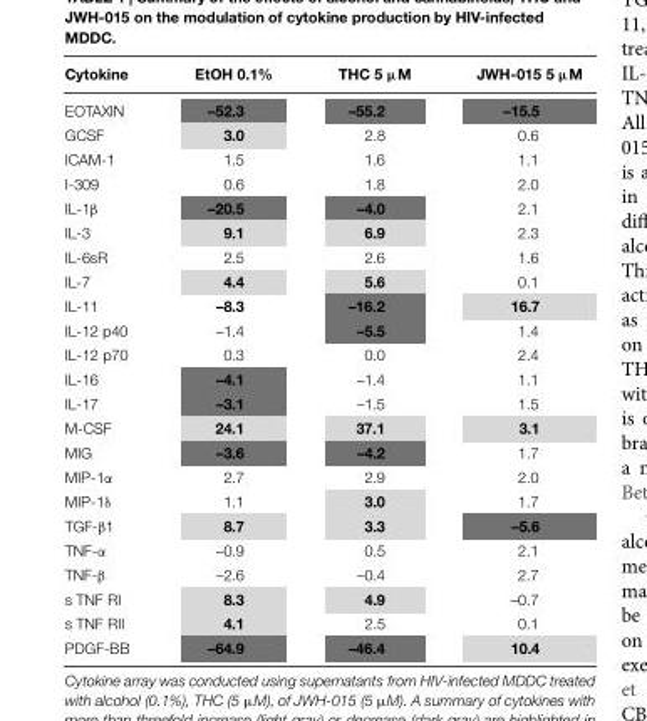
<table><thead><tr><td>Cytokine</td><td>EtOH 0.1%</td><td>THC 5 µM</td><td>JWH-015 5 µM</td></tr></thead><tbody><tr><td>EOTAXIN</td><td>–52.3</td><td>–55.2</td><td>–15.5</td></tr><tr><td>GCSF</td><td>3.0</td><td>2.8</td><td>0.6</td></tr><tr><td>ICAM-1</td><td>1.5</td><td>1.6</td><td>1.1</td></tr><tr><td>I-309</td><td>0.6</td><td>1.8</td><td>2.0</td></tr><tr><td>IL-1β</td><td>–20.5</td><td>–4.0</td><td>2.1</td></tr><tr><td>IL-3</td><td>9.1</td><td>6.9</td><td>2.3</td></tr><tr><td>IL-6sR</td><td>2.5</td><td>2.6</td><td>1.6</td></tr><tr><td>IL-7</td><td>4.4</td><td>5.6</td><td>0.1</td></tr><tr><td>IL-11</td><td>–8.3</td><td>–16.2</td><td>16.7</td></tr><tr><td>IL-12 p40</td><td>–1.4</td><td>–5.5</td><td>1.4</td></tr><tr><td>IL-12 p70</td><td>0.3</td><td>0.0</td><td>2.4</td></tr><tr><td>IL-16</td><td>–4.1</td><td>–1.4</td><td>1.1</td></tr><tr><td>IL-17</td><td>–3.1</td><td>–1.5</td><td>1.5</td></tr><tr><td>M-CSF</td><td>24.1</td><td>37.1</td><td>3.1</td></tr><tr><td>MIG</td><td>–3.6</td><td>–4.2</td><td>1.7</td></tr><tr><td>MIP-1α</td><td>2.7</td><td>2.9</td><td>2.0</td></tr><tr><td>MIP-1δ</td><td>1.1</td><td>3.0</td><td>1.7</td></tr><tr><td>TGF-β1</td><td>8.7</td><td>3.3</td><td>–5.6</td></tr><tr><td>TNF-α</td><td>–0.9</td><td>0.5</td><td>2.1</td></tr><tr><td>TNF-β</td><td>–2.6</td><td>–0.4</td><td>2.7</td></tr><tr><td>s TNF RI</td><td>8.3</td><td>4.9</td><td>–0.7</td></tr><tr><td>s TNF RII</td><td>4.1</td><td>2.5</td><td>0.1</td></tr><tr><td>PDGF-BB</td><td>–64.9</td><td>–46.4</td><td>10.4</td></tr></tbody></table>